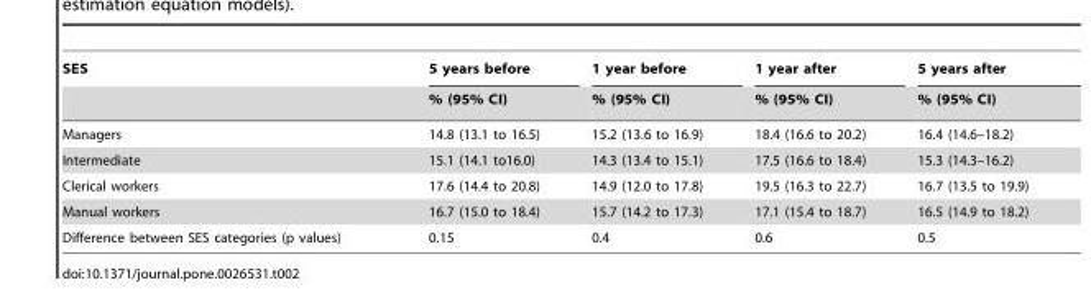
<table><thead><tr><td rowspan="2">SES</td><td rowspan="2">5 years before % (95% CI)</td><td rowspan="2">1 year before % (95% CI)</td><td rowspan="2">1 year after % (95% CI)</td><td rowspan="2">5 years after % (95% CI)</td></tr><tr></tr></thead><tbody><tr><td>Managers</td><td>14.8 (13.1 to 16.5)</td><td>15.2 (13.6 to 16.9)</td><td>18.4 (16.6 to 20.2)</td><td>16.4 (14.6–18.2)</td></tr><tr><td>Intermediate</td><td>15.1 (14.1 to16.0)</td><td>14.3 (13.4 to 15.1)</td><td>17.5 (16.6 to 18.4)</td><td>15.3 (14.3–16.2)</td></tr><tr><td>Clerical workers</td><td>17.6 (14.4 to 20.8)</td><td>14.9 (12.0 to 17.8)</td><td>19.5 (16.3 to 22.7)</td><td>16.7 (13.5 to 19.9)</td></tr><tr><td>Manual workers</td><td>16.7 (15.0 to 18.4)</td><td>15.7 (14.2 to 17.3)</td><td>17.1 (15.4 to 18.7)</td><td>16.5 (14.9 to 18.2)</td></tr><tr><td>Difference between SES categories (p values)</td><td>0.15</td><td>0.4</td><td>0.6</td><td>0.5</td></tr></tbody></table>